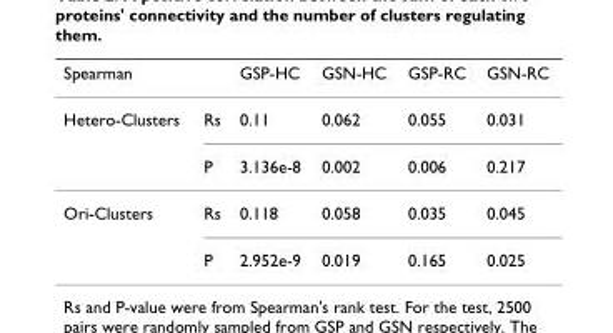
<table><thead><tr><td>Spearman</td><td></td><td>GSP-HC</td><td>GSN-HC</td><td>GSP-RC</td><td>GSN-RC</td></tr></thead><tbody><tr><td rowspan="2">Hetero-Clusters</td><td>Rs</td><td>0.11</td><td>0.062</td><td>0.055</td><td>0.031</td></tr><tr><td>P</td><td>3.136e-8</td><td>0.002</td><td>0.006</td><td>0.217</td></tr><tr><td rowspan="2">Ori-Clusters</td><td>Rs</td><td>0.118</td><td>0.058</td><td>0.035</td><td>0.045</td></tr><tr><td>P</td><td>2.952e-9</td><td>0.019</td><td>0.165</td><td>0.025</td></tr></tbody></table>